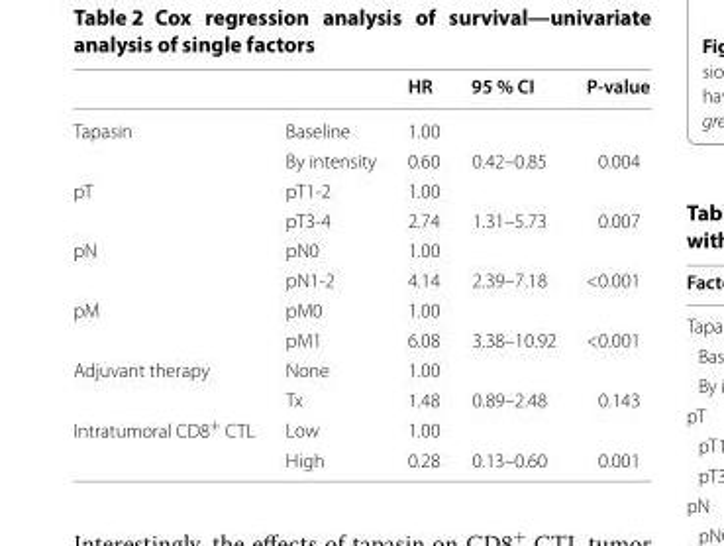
<table><thead><tr><td></td><td></td><td>HR</td><td>95 % CI</td><td>P-value</td></tr></thead><tbody><tr><td rowspan="2">Tapasin</td><td>Baseline</td><td>1.00</td><td></td><td></td></tr><tr><td>By intensity</td><td>0.60</td><td>0.42–0.85</td><td>0.004</td></tr><tr><td rowspan="2">pT</td><td>pT1-2</td><td>1.00</td><td></td><td></td></tr><tr><td>pT3-4</td><td>2.74</td><td>1.31–5.73</td><td>0.007</td></tr><tr><td rowspan="2">pN</td><td>pN0</td><td>1.00</td><td></td><td></td></tr><tr><td>pN1-2</td><td>4.14</td><td>2.39–7.18</td><td>&lt;0.001</td></tr><tr><td rowspan="2">pM</td><td>pM0</td><td>1.00</td><td></td><td></td></tr><tr><td>pM1</td><td>6.08</td><td>3.38–10.92</td><td>&lt;0.001</td></tr><tr><td rowspan="2">Adjuvant therapy</td><td>None</td><td>1.00</td><td></td><td></td></tr><tr><td>Tx</td><td>1.48</td><td>0.89–2.48</td><td>0.143</td></tr><tr><td rowspan="2">Intratumoral CD8<sup>+</sup> CTL</td><td>Low</td><td>1.00</td><td></td><td></td></tr><tr><td>High</td><td>0.28</td><td>0.13–0.60</td><td>0.001</td></tr></tbody></table>